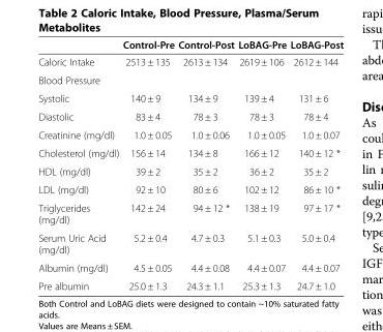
<table><thead><tr><td></td><td>Control-Pre</td><td>Control-Post</td><td>LoBAG-Pre</td><td>LoBAG-Post</td></tr></thead><tbody><tr><td>Caloric Intake</td><td>2513 ± 135</td><td>2613 ± 134</td><td>2619 ± 106</td><td>2612 ± 144</td></tr><tr><td colspan="5">Blood Pressure</td></tr><tr><td>Systolic</td><td>140 ± 9</td><td>134 ± 9</td><td>139 ± 4</td><td>131 ± 6</td></tr><tr><td>Diastolic</td><td>83 ± 4</td><td>78 ± 3</td><td>78 ± 3</td><td>78 ± 4</td></tr><tr><td>Creatinine (mg/dl)</td><td>1.0 ± 0.05</td><td>1.0 ± 0.06</td><td>1.0 ± 0.05</td><td>1.0 ± 0.07</td></tr><tr><td>Cholesterol (mg/dl)</td><td>156 ± 14</td><td>134 ± 8</td><td>166 ± 12</td><td>140 ± 12 *</td></tr><tr><td>HDL (mg/dl)</td><td>39 ± 2</td><td>35 ± 2</td><td>36 ± 2</td><td>35 ± 2</td></tr><tr><td>LDL (mg/dl)</td><td>92 ± 10</td><td>80 ± 6</td><td>102 ± 12</td><td>86 ± 10 *</td></tr><tr><td>Triglycerides (mg/dl)</td><td>142 ± 24</td><td>94 ± 12 *</td><td>138 ± 19</td><td>97 ± 17 *</td></tr><tr><td>Serum Uric Acid (mg/dl)</td><td>5.2 ± 0.4</td><td>4.7 ± 0.3</td><td>5.1 ± 0.3</td><td>5.0 ± 0.4</td></tr><tr><td>Albumin (mg/dl)</td><td>4.5 ± 0.05</td><td>4.4 ± 0.08</td><td>4.4 ± 0.07</td><td>4.4 ± 0.07</td></tr><tr><td>Pre albumin</td><td>25.0 ± 1.3</td><td>24.3 ± 1.1</td><td>25.3 ± 1.3</td><td>24.7 ± 1.0</td></tr></tbody></table>